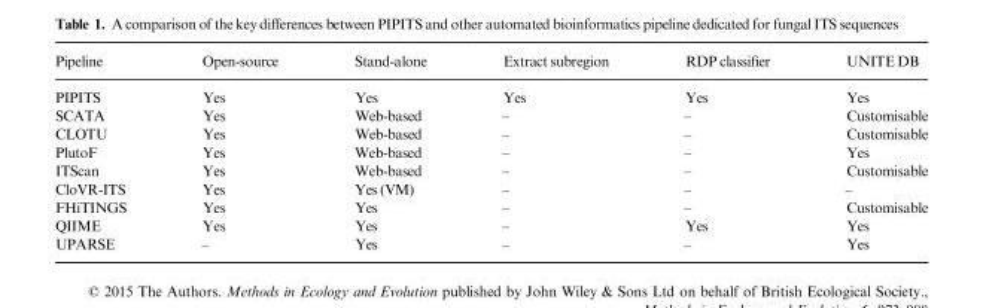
<table><thead><tr><td>Pipeline</td><td>Open-source</td><td>Stand-alone</td><td>Extract subregion</td><td>RDP classifier</td><td>UNITE DB</td></tr></thead><tbody><tr><td>PIPITS</td><td>Yes</td><td>Yes</td><td>Yes</td><td>Yes</td><td>Yes</td></tr><tr><td>SCATA</td><td>Yes</td><td>Web-based</td><td>–</td><td>–</td><td>Customisable</td></tr><tr><td>CLOTU</td><td>Yes</td><td>Web-based</td><td>–</td><td>–</td><td>Customisable</td></tr><tr><td>PlutoF</td><td>Yes</td><td>Web-based</td><td>–</td><td>–</td><td>Yes</td></tr><tr><td>ITScan</td><td>Yes</td><td>Web-based</td><td>–</td><td>–</td><td>Customisable</td></tr><tr><td>CloVR-ITS</td><td>Yes</td><td>Yes (VM)</td><td>–</td><td>–</td><td>–</td></tr><tr><td>FHiTINGS</td><td>Yes</td><td>Yes</td><td>–</td><td>–</td><td>Customisable</td></tr><tr><td>QIIME</td><td>Yes</td><td>Yes</td><td>–</td><td>Yes</td><td>Yes</td></tr><tr><td>UPARSE</td><td>–</td><td>Yes</td><td>–</td><td>–</td><td>Yes</td></tr></tbody></table>